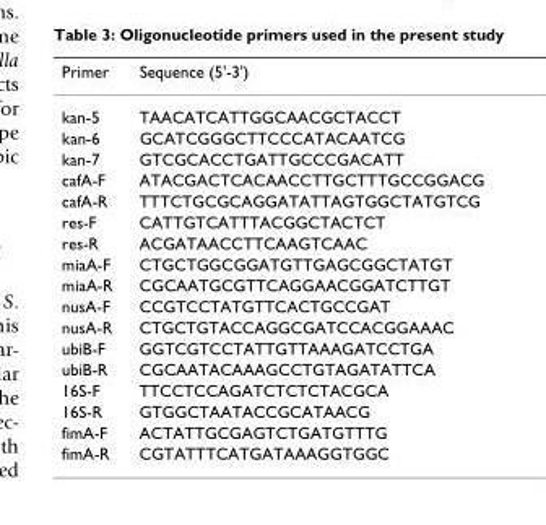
<table><thead><tr><td>Primer</td><td>Sequence (5&#x27;-3&#x27;)</td></tr></thead><tbody><tr><td>kan-5</td><td>TAACATCATTGGCAACGCTACCT</td></tr><tr><td>kan-6</td><td>GCATCGGGCTTCCCATACAATCG</td></tr><tr><td>kan-7</td><td>GTCGCACCTGATTGCCCGACATT</td></tr><tr><td>cafA-F</td><td>ATACGACTCACAACCTTGCTTTGCCGGACG</td></tr><tr><td>cafA-R</td><td>TTTCTGCGCAGGATATTAGTGGCTATGTCG</td></tr><tr><td>res-F</td><td>CATTGTCATTTACGGCTACTCT</td></tr><tr><td>res-R</td><td>ACGATAACCTTCAAGTCAAC</td></tr><tr><td>miaA-F</td><td>CTGCTGGCGGATGTTGAGCGGCTATGT</td></tr><tr><td>miaA-R</td><td>CGCAATGCGTTCAGGAACGGATCTTGT</td></tr><tr><td>nusA-F</td><td>CCGTCCTATGTTCACTGCCGAT</td></tr><tr><td>nusA-R</td><td>CTGCTGTACCAGGCGATCCACGGAAAC</td></tr><tr><td>ubiB-F</td><td>GGTCGTCCTATTGTTAAAGATCCTGA</td></tr><tr><td>ubiB-R</td><td>CGCAATACAAAGCCTGTAGATATTCA</td></tr><tr><td>16S-F</td><td>TTCCTCCAGATCTCTCTACGCA</td></tr><tr><td>16S-R</td><td>GTGGCTAATACCGCATAACG</td></tr><tr><td>fimA-F</td><td>ACTATTGCGAGTCTGATGTTTG</td></tr><tr><td>fimA-R</td><td>CGTATTTCATGATAAAGGTGGC</td></tr></tbody></table>